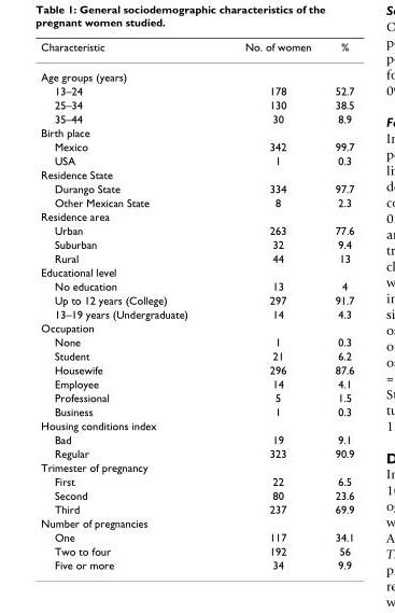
<table><thead><tr><td>Characteristic</td><td>No. of women</td><td>%</td></tr></thead><tbody><tr><td colspan="3">Age groups (years)</td></tr><tr><td>13–24</td><td>178</td><td>52.7</td></tr><tr><td>25–34</td><td>130</td><td>38.5</td></tr><tr><td>35–44</td><td>30</td><td>8.9</td></tr><tr><td colspan="3">Birth place</td></tr><tr><td>Mexico</td><td>342</td><td>99.7</td></tr><tr><td>USA</td><td>1</td><td>0.3</td></tr><tr><td colspan="3">Residence State</td></tr><tr><td>Durango State</td><td>334</td><td>97.7</td></tr><tr><td>Other Mexican State</td><td>8</td><td>2.3</td></tr><tr><td colspan="3">Residence area</td></tr><tr><td>Urban</td><td>263</td><td>77.6</td></tr><tr><td>Suburban</td><td>32</td><td>9.4</td></tr><tr><td>Rural</td><td>44</td><td>13</td></tr><tr><td colspan="3">Educational level</td></tr><tr><td>No education</td><td>13</td><td>4</td></tr><tr><td>Up to 12 years (College)</td><td>297</td><td>91.7</td></tr><tr><td>13–19 years (Undergraduate)</td><td>14</td><td>4.3</td></tr><tr><td colspan="3">Occupation</td></tr><tr><td>None</td><td>1</td><td>0.3</td></tr><tr><td>Student</td><td>21</td><td>6.2</td></tr><tr><td>Housewife</td><td>296</td><td>87.6</td></tr><tr><td>Employee</td><td>14</td><td>4.1</td></tr><tr><td>Professional</td><td>5</td><td>1.5</td></tr><tr><td>Business</td><td>1</td><td>0.3</td></tr><tr><td colspan="3">Housing conditions index</td></tr><tr><td>Bad</td><td>19</td><td>9.1</td></tr><tr><td>Regular</td><td>323</td><td>90.9</td></tr><tr><td colspan="3">Trimester of pregnancy</td></tr><tr><td>First</td><td>22</td><td>6.5</td></tr><tr><td>Second</td><td>80</td><td>23.6</td></tr><tr><td>Third</td><td>237</td><td>69.9</td></tr><tr><td colspan="3">Number of pregnancies</td></tr><tr><td>One</td><td>117</td><td>34.1</td></tr><tr><td>Two to four</td><td>192</td><td>56</td></tr><tr><td>Five or more</td><td>34</td><td>9.9</td></tr></tbody></table>